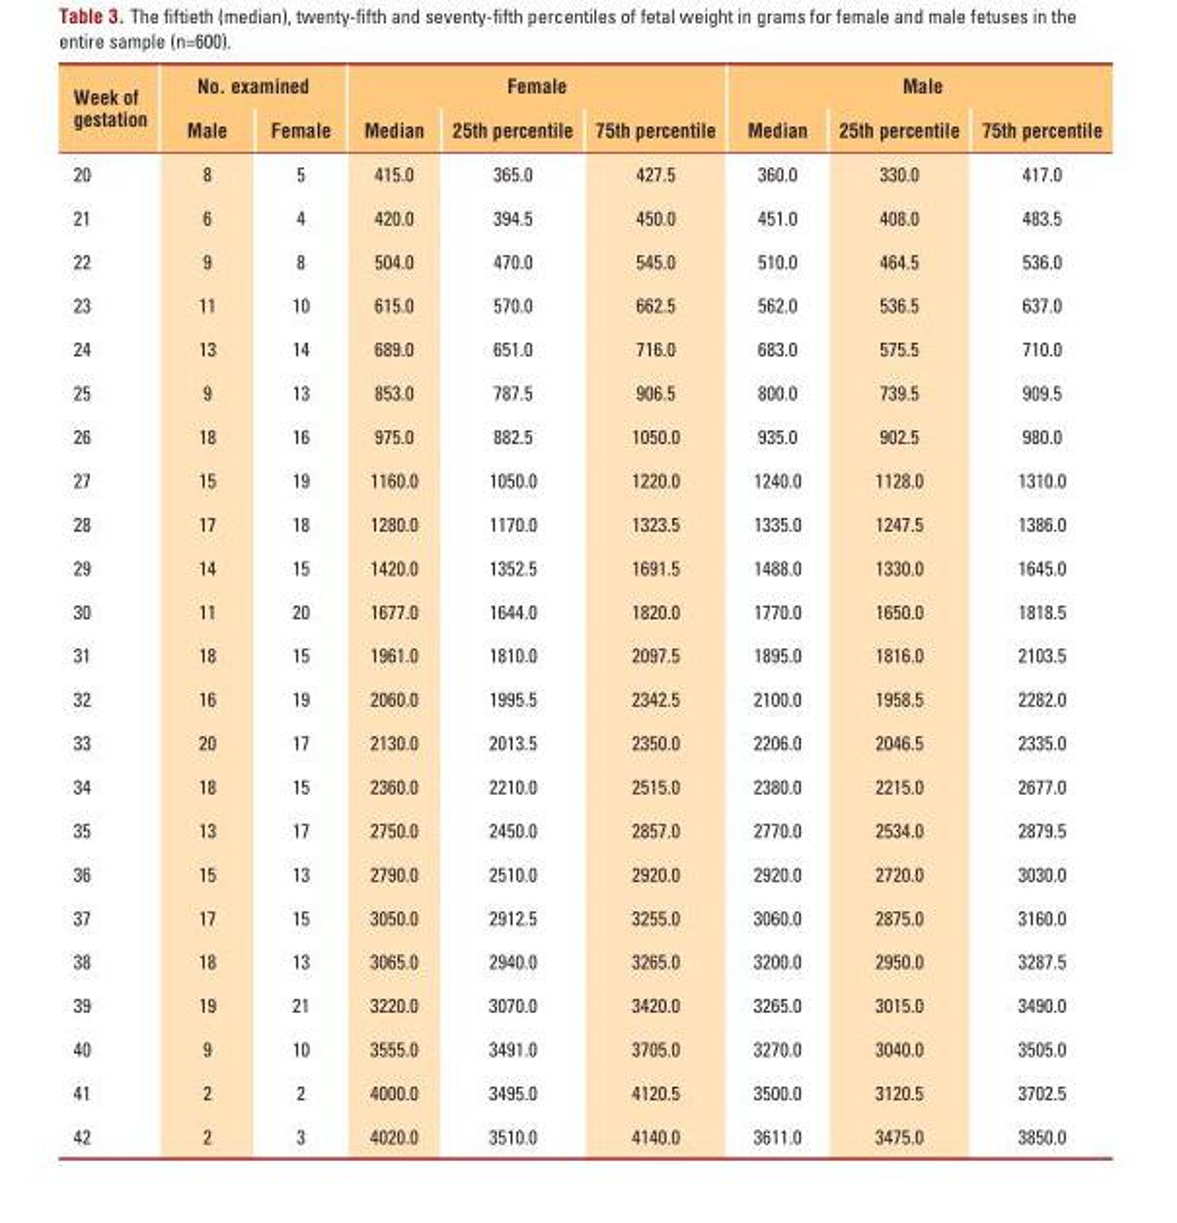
<table><thead><tr><td rowspan="2">Week of gestation</td><td colspan="2">No. examined</td><td colspan="3">Female</td><td colspan="3">Male</td></tr><tr><td>Male</td><td>Female</td><td>Median</td><td>25th percentile</td><td>75th percentile</td><td>Median</td><td>25th percentile</td><td>75th percentile</td></tr></thead><tbody><tr><td>20</td><td>8</td><td>5</td><td>415.0</td><td>365.0</td><td>427.5</td><td>360.0</td><td>330.0</td><td>417.0</td></tr><tr><td>21</td><td>6</td><td>4</td><td>420.0</td><td>394.5</td><td>450.0</td><td>451.0</td><td>408.0</td><td>483.5</td></tr><tr><td>22</td><td>9</td><td>8</td><td>504.0</td><td>470.0</td><td>545.0</td><td>510.0</td><td>464.5</td><td>536.0</td></tr><tr><td>23</td><td>11</td><td>10</td><td>615.0</td><td>570.0</td><td>662.5</td><td>562.0</td><td>536.5</td><td>637.0</td></tr><tr><td>24</td><td>13</td><td>14</td><td>689.0</td><td>651.0</td><td>716.0</td><td>683.0</td><td>575.5</td><td>710.0</td></tr><tr><td>25</td><td>9</td><td>13</td><td>853.0</td><td>787.5</td><td>906.5</td><td>800.0</td><td>739.5</td><td>909.5</td></tr><tr><td>26</td><td>18</td><td>16</td><td>975.0</td><td>882.5</td><td>1050.0</td><td>935.0</td><td>902.5</td><td>980.0</td></tr><tr><td>27</td><td>15</td><td>19</td><td>1160.0</td><td>1050.0</td><td>1220.0</td><td>1240.0</td><td>1128.0</td><td>1310.0</td></tr><tr><td>28</td><td>17</td><td>18</td><td>1280.0</td><td>1170.0</td><td>1323.5</td><td>1335.0</td><td>1247.5</td><td>1386.0</td></tr><tr><td>29</td><td>14</td><td>15</td><td>1420.0</td><td>1352.5</td><td>1691.5</td><td>1488.0</td><td>1330.0</td><td>1645.0</td></tr><tr><td>30</td><td>11</td><td>20</td><td>1677.0</td><td>1644.0</td><td>1820.0</td><td>1770.0</td><td>1650.0</td><td>1818.5</td></tr><tr><td>31</td><td>18</td><td>15</td><td>1961.0</td><td>1810.0</td><td>2097.5</td><td>1895.0</td><td>1816.0</td><td>2103.5</td></tr><tr><td>32</td><td>16</td><td>19</td><td>2060.0</td><td>1995.5</td><td>2342.5</td><td>2100.0</td><td>1958.5</td><td>2282.0</td></tr><tr><td>33</td><td>20</td><td>17</td><td>2130.0</td><td>2013.5</td><td>2350.0</td><td>2206.0</td><td>2046.5</td><td>2335.0</td></tr><tr><td>34</td><td>18</td><td>15</td><td>2360.0</td><td>2210.0</td><td>2515.0</td><td>2380.0</td><td>2215.0</td><td>2677.0</td></tr><tr><td>35</td><td>13</td><td>17</td><td>2750.0</td><td>2450.0</td><td>2857.0</td><td>2770.0</td><td>2534.0</td><td>2879.5</td></tr><tr><td>36</td><td>15</td><td>13</td><td>2790.0</td><td>2510.0</td><td>2920.0</td><td>2920.0</td><td>2720.0</td><td>3030.0</td></tr><tr><td>37</td><td>17</td><td>15</td><td>3050.0</td><td>2912.5</td><td>3255.0</td><td>3060.0</td><td>2875.0</td><td>3160.0</td></tr><tr><td>38</td><td>18</td><td>13</td><td>3065.0</td><td>2940.0</td><td>3265.0</td><td>3200.0</td><td>2950.0</td><td>3287.5</td></tr><tr><td>39</td><td>19</td><td>21</td><td>3220.0</td><td>3070.0</td><td>3420.0</td><td>3265.0</td><td>3015.0</td><td>3490.0</td></tr><tr><td>40</td><td>9</td><td>10</td><td>3555.0</td><td>3491.0</td><td>3705.0</td><td>3270.0</td><td>3040.0</td><td>3505.0</td></tr><tr><td>41</td><td>2</td><td>2</td><td>4000.0</td><td>3495.0</td><td>4120.5</td><td>3500.0</td><td>3120.5</td><td>3702.5</td></tr><tr><td>42</td><td>2</td><td>3</td><td>4020.0</td><td>3510.0</td><td>4140.0</td><td>3611.0</td><td>3475.0</td><td>3850.0</td></tr></tbody></table>